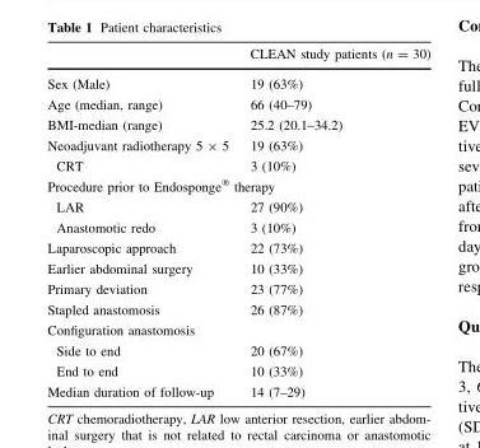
<table><thead><tr><td></td><td>CLEAN study patients (n = 30)</td></tr></thead><tbody><tr><td>Sex (Male)</td><td>19 (63%)</td></tr><tr><td>Age (median, range)</td><td>66 (40–79)</td></tr><tr><td>BMI-median (range)</td><td>25.2 (20.1–34.2)</td></tr><tr><td>Neoadjuvant radiotherapy 5 × 5</td><td>19 (63%)</td></tr><tr><td>CRT</td><td>3 (10%)</td></tr><tr><td colspan="2">Procedure prior to Endosponge<sup>®</sup> therapy</td></tr><tr><td>LAR</td><td>27 (90%)</td></tr><tr><td>Anastomotic redo</td><td>3 (10%)</td></tr><tr><td>Laparoscopic approach</td><td>22 (73%)</td></tr><tr><td>Earlier abdominal surgery</td><td>10 (33%)</td></tr><tr><td>Primary deviation</td><td>23 (77%)</td></tr><tr><td>Stapled anastomosis</td><td>26 (87%)</td></tr><tr><td colspan="2">Configuration anastomosis</td></tr><tr><td>Side to end</td><td>20 (67%)</td></tr><tr><td>End to end</td><td>10 (33%)</td></tr><tr><td>Median duration of follow-up</td><td>14 (7–29)</td></tr></tbody></table>